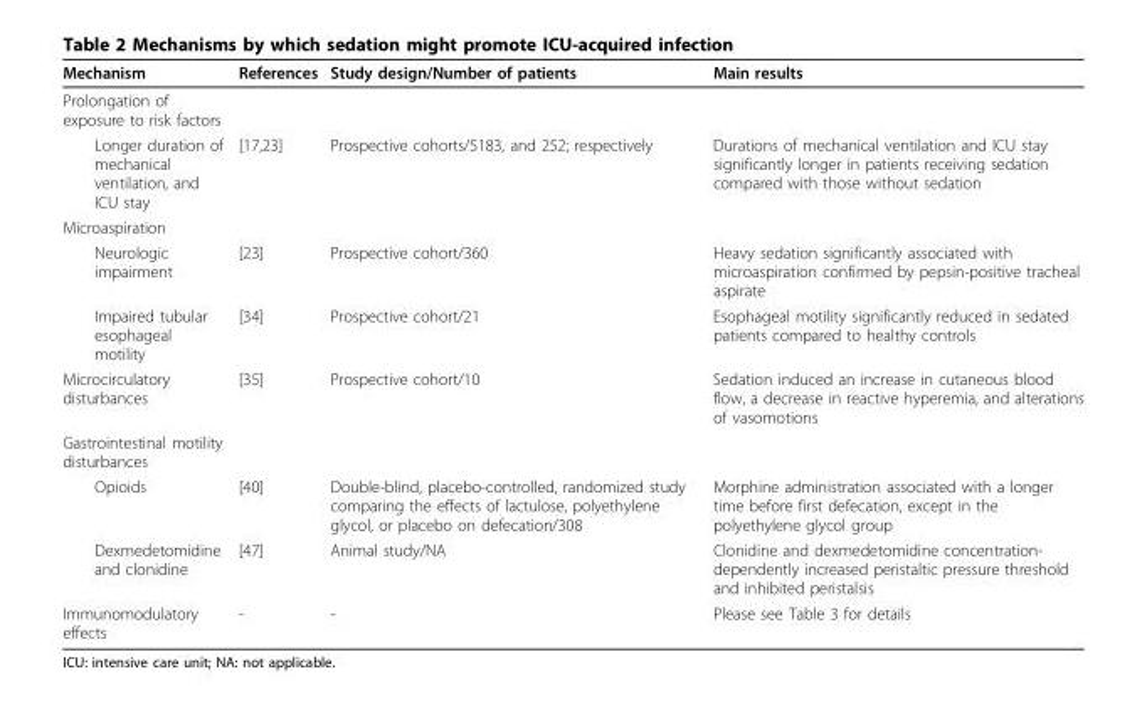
<table><thead><tr><td>Mechanism</td><td>References</td><td>Study design/Number of patients</td><td>Main results</td></tr></thead><tbody><tr><td colspan="4">Prolongation of exposure to risk factors</td></tr><tr><td>Longer duration of mechanical ventilation, and ICU stay</td><td>[17,23]</td><td>Prospective cohorts/5183, and 252; respectively</td><td>Durations of mechanical ventilation and ICU stay significantly longer in patients receiving sedation compared with those without sedation</td></tr><tr><td colspan="4">Microaspiration</td></tr><tr><td>Neurologic impairment</td><td>[23]</td><td>Prospective cohort/360</td><td>Heavy sedation significantly associated with microaspiration confirmed by pepsin-positive tracheal aspirate</td></tr><tr><td>Impaired tubular esophageal motility</td><td>[34]</td><td>Prospective cohort/21</td><td>Esophageal motility significantly reduced in sedated patients compared to healthy controls</td></tr><tr><td>Microcirculatory disturbances</td><td>[35]</td><td>Prospective cohort/10</td><td>Sedation induced an increase in cutaneous blood flow, a decrease in reactive hyperemia, and alterations of vasomotions</td></tr><tr><td colspan="4">Gastrointestinal motility disturbances</td></tr><tr><td>Opioids</td><td>[40]</td><td>Double-blind, placebo-controlled, randomized study comparing the effects of lactulose, polyethylene glycol, or placebo on defecation/308</td><td>Morphine administration associated with a longer time before first defecation, except in the polyethylene glycol group</td></tr><tr><td>Dexmedetomidine and clonidine</td><td>[47]</td><td>Animal study/NA</td><td>Clonidine and dexmedetomidine concentration- dependently increased peristaltic pressure threshold and inhibited peristalsis</td></tr><tr><td>Immunomodulatory effects</td><td>-</td><td>-</td><td>Please see Table 3 for details</td></tr></tbody></table>